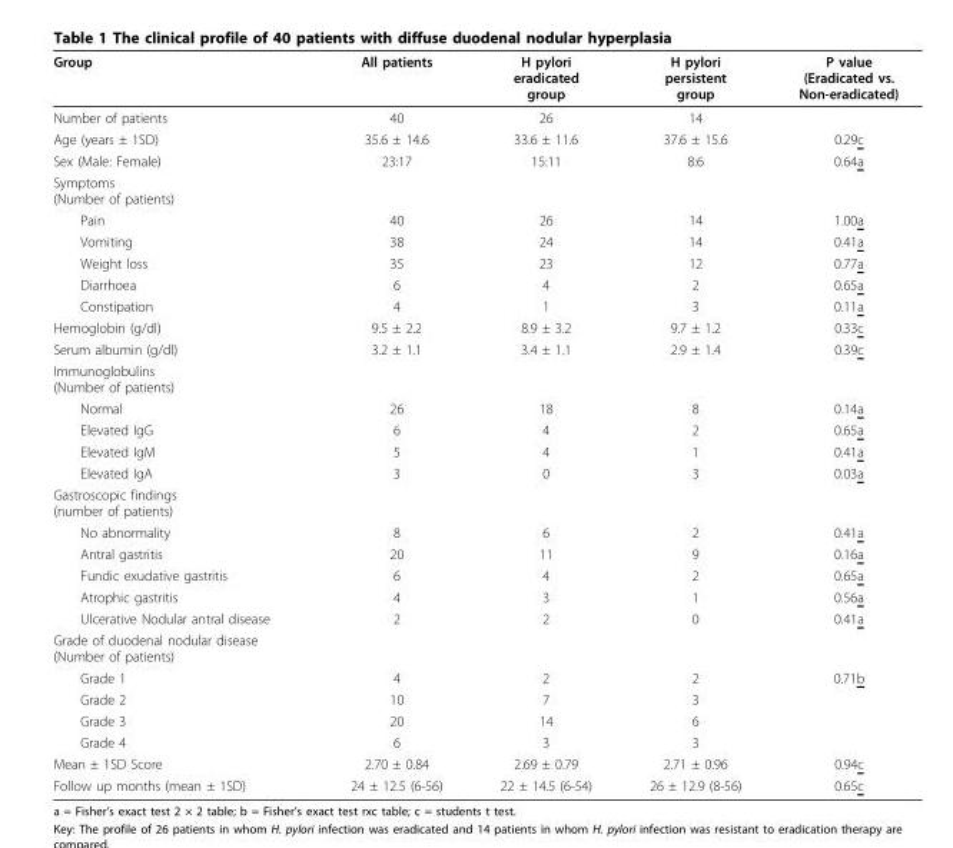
<table><thead><tr><td>Group</td><td>All patients</td><td>H pylori eradicated group</td><td>H pylori persistent group</td><td>P value (Eradicated vs. Non-eradicated)</td></tr></thead><tbody><tr><td>Number of patients</td><td>40</td><td>26</td><td>14</td><td></td></tr><tr><td>Age (years ± 1SD)</td><td>35.6 ± 14.6</td><td>33.6 ± 11.6</td><td>37.6 ± 15.6</td><td>0.29c</td></tr><tr><td>Sex (Male: Female)</td><td>23:17</td><td>15:11</td><td>8:6</td><td>0.64a</td></tr><tr><td colspan="5">Symptoms (Number of patients)</td></tr><tr><td>Pain</td><td>40</td><td>26</td><td>14</td><td>1.00a</td></tr><tr><td>Vomiting</td><td>38</td><td>24</td><td>14</td><td>0.41a</td></tr><tr><td>Weight loss</td><td>35</td><td>23</td><td>12</td><td>0.77a</td></tr><tr><td>Diarrhoea</td><td>6</td><td>4</td><td>2</td><td>0.65a</td></tr><tr><td>Constipation</td><td>4</td><td>1</td><td>3</td><td>0.11a</td></tr><tr><td>Hemoglobin (g/dl)</td><td>9.5 ± 2.2</td><td>8.9 ± 3.2</td><td>9.7 ± 1.2</td><td>0.33c</td></tr><tr><td>Serum albumin (g/dl)</td><td>3.2 ± 1.1</td><td>3.4 ± 1.1</td><td>2.9 ± 1.4</td><td>0.39c</td></tr><tr><td colspan="5">Immunoglobulins (Number of patients)</td></tr><tr><td>Normal</td><td>26</td><td>18</td><td>8</td><td>0.14a</td></tr><tr><td>Elevated IgG</td><td>6</td><td>4</td><td>2</td><td>0.65a</td></tr><tr><td>Elevated IgM</td><td>5</td><td>4</td><td>1</td><td>0.41a</td></tr><tr><td>Elevated IgA</td><td>3</td><td>0</td><td>3</td><td>0.03a</td></tr><tr><td colspan="5">Gastroscopic findings (number of patients)</td></tr><tr><td>No abnormality</td><td>8</td><td>6</td><td>2</td><td>0.41a</td></tr><tr><td>Antral gastritis</td><td>20</td><td>11</td><td>9</td><td>0.16a</td></tr><tr><td>Fundic exudative gastritis</td><td>6</td><td>4</td><td>2</td><td>0.65a</td></tr><tr><td>Atrophic gastritis</td><td>4</td><td>3</td><td>1</td><td>0.56a</td></tr><tr><td>Ulcerative Nodular antral disease</td><td>2</td><td>2</td><td>0</td><td>0.41a</td></tr><tr><td colspan="5">Grade of duodenal nodular disease (Number of patients)</td></tr><tr><td>Grade 1</td><td>4</td><td>2</td><td>2</td><td>0.71b</td></tr><tr><td>Grade 2</td><td>10</td><td>7</td><td>3</td><td></td></tr><tr><td>Grade 3</td><td>20</td><td>14</td><td>6</td><td></td></tr><tr><td>Grade 4</td><td>6</td><td>3</td><td>3</td><td></td></tr><tr><td>Mean ± 1SD Score</td><td>2.70 ± 0.84</td><td>2.69 ± 0.79</td><td>2.71 ± 0.96</td><td>0.94c</td></tr><tr><td>Follow up months (mean ± 1SD)</td><td>24 ± 12.5 (6-56)</td><td>22 ± 14.5 (6-54)</td><td>26 ± 12.9 (8-56)</td><td>0.65c</td></tr></tbody></table>